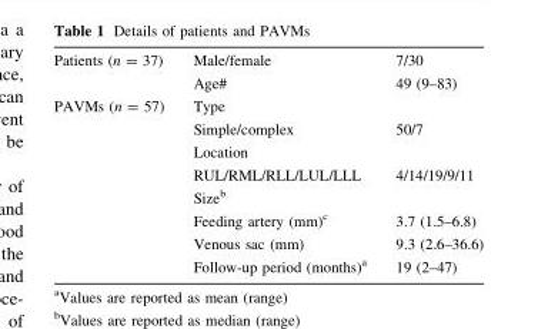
<table><tbody><tr><td rowspan="2">Patients (n = 37)</td><td>Male/female</td><td>7/30</td></tr><tr><td>Age#</td><td>49 (9–83)</td></tr><tr><td rowspan="8">PAVMs (n = 57)</td><td>Type</td><td></td></tr><tr><td>Simple/complex</td><td>50/7</td></tr><tr><td>Location</td><td></td></tr><tr><td>RUL/RML/RLL/LUL/LLL</td><td>4/14/19/9/11</td></tr><tr><td>Size<sup>b</sup></td><td></td></tr><tr><td>Feeding artery (mm)<sup>c</sup></td><td>3.7 (1.5–6.8)</td></tr><tr><td>Venous sac (mm)</td><td>9.3 (2.6–36.6)</td></tr><tr><td>Follow-up period (months)<sup>a</sup></td><td>19 (2–47)</td></tr></tbody></table>